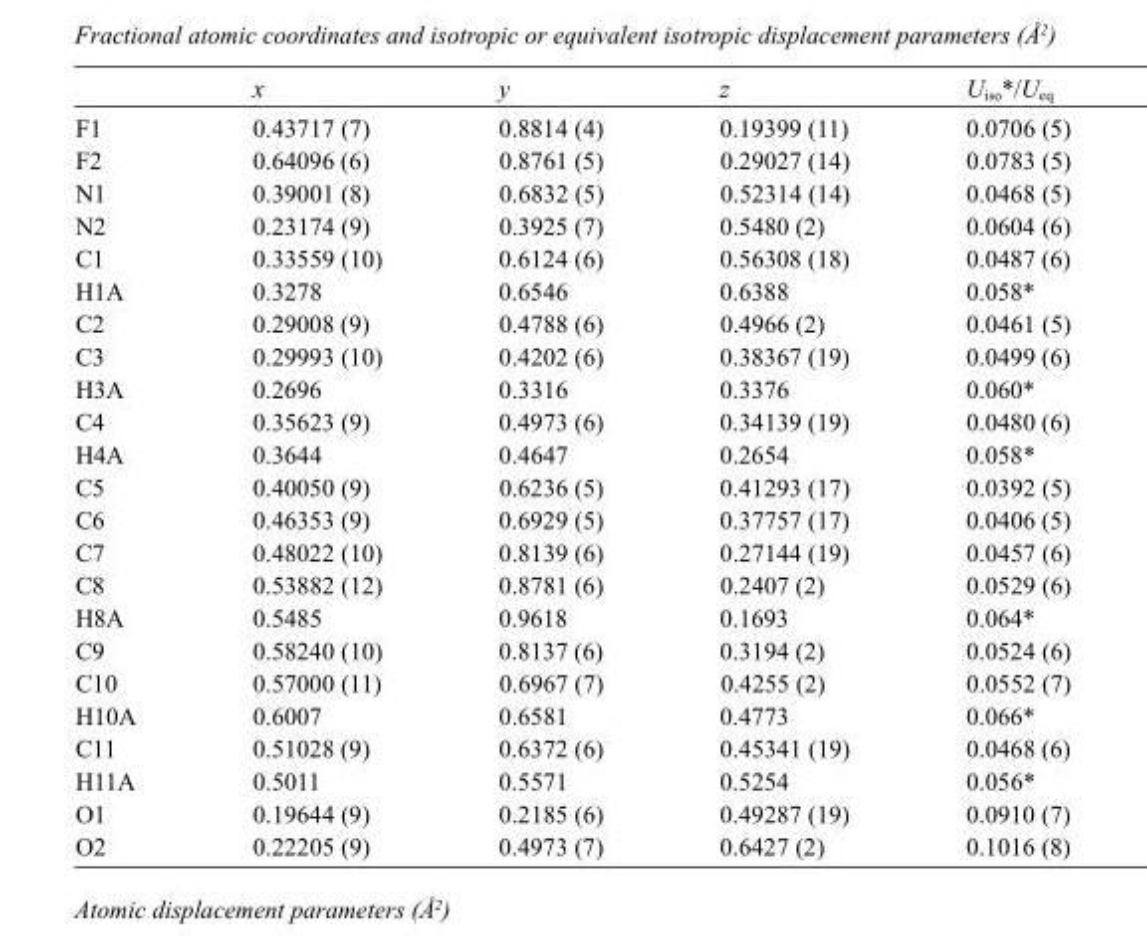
<table><thead><tr><td></td><td>x</td><td>y</td><td>z</td><td>U<sub>iso</sub>*/U<sub>eq</sub></td></tr></thead><tbody><tr><td>F1</td><td>0.43717 (7)</td><td>0.8814 (4)</td><td>0.19399 (11)</td><td>0.0706 (5)</td></tr><tr><td>F2</td><td>0.64096 (6)</td><td>0.8761 (5)</td><td>0.29027 (14)</td><td>0.0783 (5)</td></tr><tr><td>N1</td><td>0.39001 (8)</td><td>0.6832 (5)</td><td>0.52314 (14)</td><td>0.0468 (5)</td></tr><tr><td>N2</td><td>0.23174 (9)</td><td>0.3925 (7)</td><td>0.5480 (2)</td><td>0.0604 (6)</td></tr><tr><td>C1</td><td>0.33559 (10)</td><td>0.6124 (6)</td><td>0.56308 (18)</td><td>0.0487 (6)</td></tr><tr><td>H1A</td><td>0.3278</td><td>0.6546</td><td>0.6388</td><td>0.058*</td></tr><tr><td>C2</td><td>0.29008 (9)</td><td>0.4788 (6)</td><td>0.4966 (2)</td><td>0.0461 (5)</td></tr><tr><td>C3</td><td>0.29993 (10)</td><td>0.4202 (6)</td><td>0.38367 (19)</td><td>0.0499 (6)</td></tr><tr><td>H3A</td><td>0.2696</td><td>0.3316</td><td>0.3376</td><td>0.060*</td></tr><tr><td>C4</td><td>0.35623 (9)</td><td>0.4973 (6)</td><td>0.34139 (19)</td><td>0.0480 (6)</td></tr><tr><td>H4A</td><td>0.3644</td><td>0.4647</td><td>0.2654</td><td>0.058*</td></tr><tr><td>C5</td><td>0.40050 (9)</td><td>0.6236 (5)</td><td>0.41293 (17)</td><td>0.0392 (5)</td></tr><tr><td>C6</td><td>0.46353 (9)</td><td>0.6929 (5)</td><td>0.37757 (17)</td><td>0.0406 (5)</td></tr><tr><td>C7</td><td>0.48022 (10)</td><td>0.8139 (6)</td><td>0.27144 (19)</td><td>0.0457 (6)</td></tr><tr><td>C8</td><td>0.53882 (12)</td><td>0.8781 (6)</td><td>0.2407 (2)</td><td>0.0529 (6)</td></tr><tr><td>H8A</td><td>0.5485</td><td>0.9618</td><td>0.1693</td><td>0.064*</td></tr><tr><td>C9</td><td>0.58240 (10)</td><td>0.8137 (6)</td><td>0.3194 (2)</td><td>0.0524 (6)</td></tr><tr><td>C10</td><td>0.57000 (11)</td><td>0.6967 (7)</td><td>0.4255 (2)</td><td>0.0552 (7)</td></tr><tr><td>H10A</td><td>0.6007</td><td>0.6581</td><td>0.4773</td><td>0.066*</td></tr><tr><td>C11</td><td>0.51028 (9)</td><td>0.6372 (6)</td><td>0.45341 (19)</td><td>0.0468 (6)</td></tr><tr><td>H11A</td><td>0.5011</td><td>0.5571</td><td>0.5254</td><td>0.056*</td></tr><tr><td>O1</td><td>0.19644 (9)</td><td>0.2185 (6)</td><td>0.49287 (19)</td><td>0.0910 (7)</td></tr><tr><td>O2</td><td>0.22205 (9)</td><td>0.4973 (7)</td><td>0.6427 (2)</td><td>0.1016 (8)</td></tr></tbody></table>